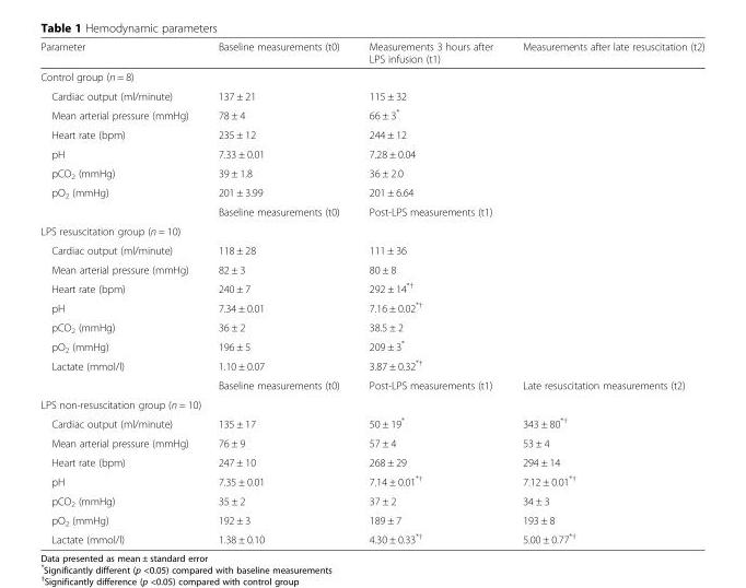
<table><thead><tr><td>Parameter</td><td>Baseline measurements (t0)</td><td>Measurements 3 hours after LPS infusion (t1)</td><td>Measurements after late resuscitation (t2)</td></tr></thead><tbody><tr><td colspan="4">Control group (n = 8)</td></tr><tr><td>Cardiac output (ml/minute)</td><td>137 ± 21</td><td>115 ± 32</td><td></td></tr><tr><td>Mean arterial pressure (mmHg)</td><td>78 ± 4</td><td>66 ± 3*</td><td></td></tr><tr><td>Heart rate (bpm)</td><td>235 ± 12</td><td>244 ± 12</td><td></td></tr><tr><td>pH</td><td>7.33 ± 0.01</td><td>7.28 ± 0.04</td><td></td></tr><tr><td>pCO<sub>2</sub> (mmHg)</td><td>39 ± 1.8</td><td>36 ± 2.0</td><td></td></tr><tr><td rowspan="2">pO<sub>2</sub> (mmHg)</td><td>201 ± 3.99</td><td>201 ± 6.64</td><td></td></tr><tr><td>Baseline measurements (t0)</td><td>Post-LPS measurements (t1)</td><td></td></tr><tr><td colspan="4">LPS resuscitation group (n = 10)</td></tr><tr><td>Cardiac output (ml/minute)</td><td>118 ± 28</td><td>111 ± 36</td><td></td></tr><tr><td>Mean arterial pressure (mmHg)</td><td>82 ± 3</td><td>80 ± 8</td><td></td></tr><tr><td>Heart rate (bpm)</td><td>240 ± 7</td><td>292 ± 14<sup>*†</sup></td><td></td></tr><tr><td>pH</td><td>7.34 ± 0.01</td><td>7.16 ± 0.02<sup>*†</sup></td><td></td></tr><tr><td>pCO<sub>2</sub> (mmHg)</td><td>36 ± 2</td><td>38.5 ± 2</td><td></td></tr><tr><td>pO<sub>2</sub> (mmHg)</td><td>196 ± 5</td><td>209 ± 3*</td><td></td></tr><tr><td rowspan="2">Lactate (mmol/l)</td><td>1.10 ± 0.07</td><td>3.87 ± 0.32<sup>*†</sup></td><td></td></tr><tr><td>Baseline measurements (t0)</td><td>Post-LPS measurements (t1)</td><td>Late resuscitation measurements (t2)</td></tr><tr><td colspan="4">LPS non-resuscitation group (n = 10)</td></tr><tr><td>Cardiac output (ml/minute)</td><td>135 ± 17</td><td>50 ± 19*</td><td>343 ± 80<sup>*†</sup></td></tr><tr><td>Mean arterial pressure (mmHg)</td><td>76 ± 9</td><td>57 ± 4</td><td>53 ± 4</td></tr><tr><td>Heart rate (bpm)</td><td>247 ± 10</td><td>268 ± 29</td><td>294 ± 14</td></tr><tr><td>pH</td><td>7.35 ± 0.01</td><td>7.14 ± 0.01<sup>*†</sup></td><td>7.12 ± 0.01<sup>*†</sup></td></tr><tr><td>pCO<sub>2</sub> (mmHg)</td><td>35 ± 2</td><td>37 ± 2</td><td>34 ± 3</td></tr><tr><td>pO<sub>2</sub> (mmHg)</td><td>192 ± 3</td><td>189 ± 7</td><td>193 ± 8</td></tr><tr><td>Lactate (mmol/l)</td><td>1.38 ± 0.10</td><td>4.30 ± 0.33<sup>*†</sup></td><td>5.00 ± 0.77<sup>*†</sup></td></tr></tbody></table>